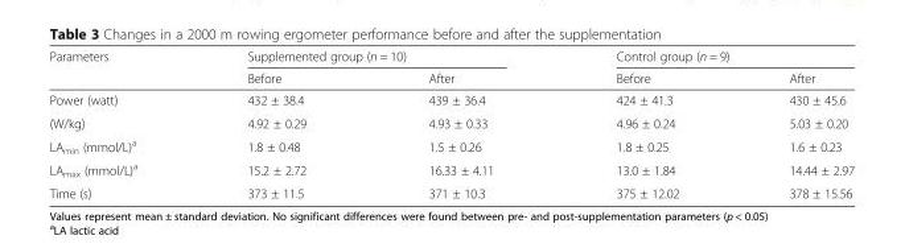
<table><thead><tr><td rowspan="2">Parameters</td><td colspan="2">Supplemented group (n = 10)</td><td colspan="2">Control group (n = 9)</td></tr><tr><td>Before</td><td>After</td><td>Before</td><td>After</td></tr></thead><tbody><tr><td>Power (watt)</td><td>432 ± 38.4</td><td>439 ± 36.4</td><td>424 ± 41.3</td><td>430 ± 45.6</td></tr><tr><td>(W/kg)</td><td>4.92 ± 0.29</td><td>4.93 ± 0.33</td><td>4.96 ± 0.24</td><td>5.03 ± 0.20</td></tr><tr><td>LA<sub>min</sub> (mmol/L)<sup>a</sup></td><td>1.8 ± 0.48</td><td>1.5 ± 0.26</td><td>1.8 ± 0.25</td><td>1.6 ± 0.23</td></tr><tr><td>LA<sub>max</sub> (mmol/L)<sup>a</sup></td><td>15.2 ± 2.72</td><td>16.33 ± 4.11</td><td>13.0 ± 1.84</td><td>14.44 ± 2.97</td></tr><tr><td>Time (s)</td><td>373 ± 11.5</td><td>371 ± 10.3</td><td>375 ± 12.02</td><td>378 ± 15.56</td></tr></tbody></table>